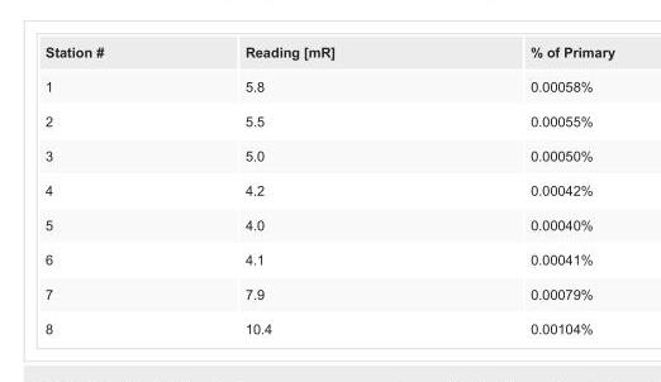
<table><tbody><tr><td>Station #</td><td>Reading [mR]</td><td>% of Primary</td></tr><tr><td>1</td><td>5.8</td><td>0.00058%</td></tr><tr><td>2</td><td>5.5</td><td>0.00055%</td></tr><tr><td>3</td><td>5.0</td><td>0.00050%</td></tr><tr><td>4</td><td>4.2</td><td>0.00042%</td></tr><tr><td>5</td><td>4.0</td><td>0.00040%</td></tr><tr><td>6</td><td>4.1</td><td>0.00041%</td></tr><tr><td>7</td><td>7.9</td><td>0.00079%</td></tr><tr><td>8</td><td>10.4</td><td>0.00104%</td></tr></tbody></table>